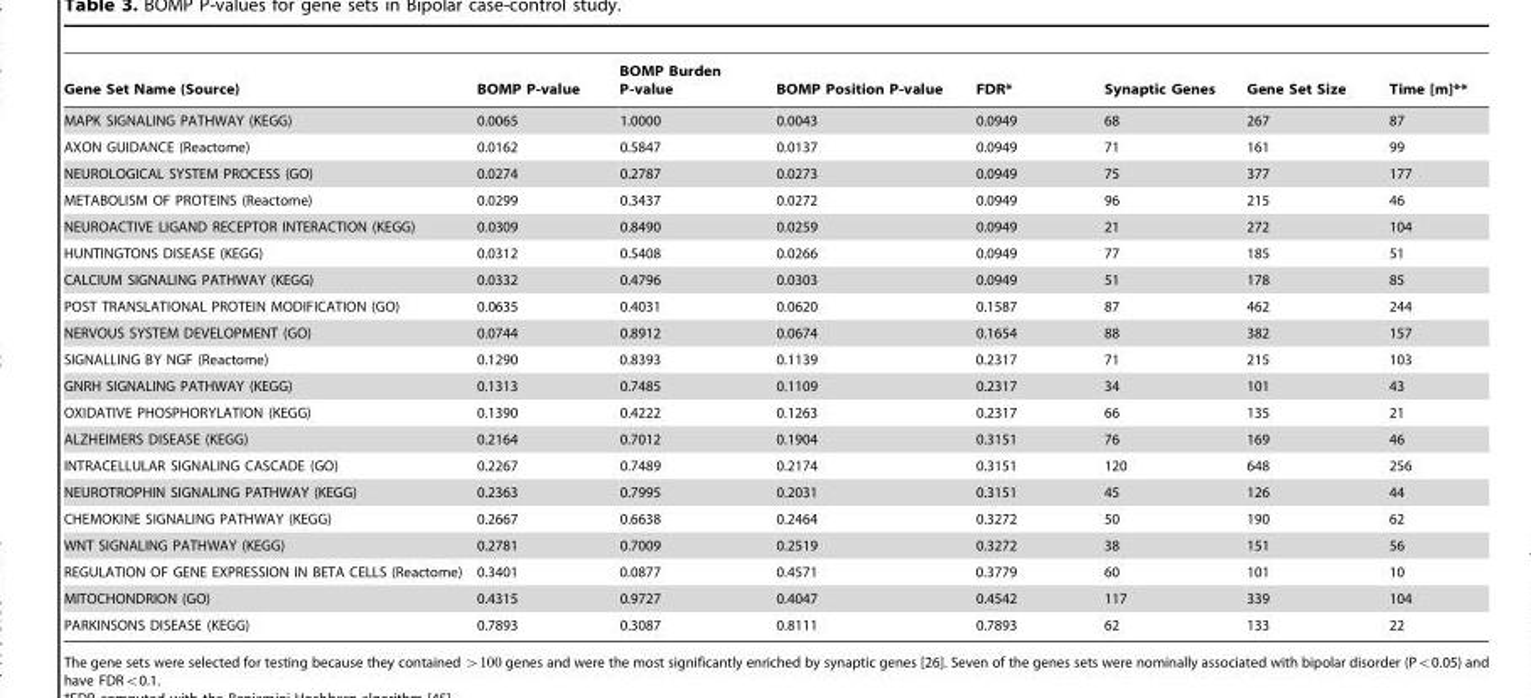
<table><thead><tr><td>Gene Set Name (Source)</td><td>BOMP P-value</td><td>BOMP Burden P-value</td><td>BOMP Position P-value</td><td>FDR*</td><td>Synaptic Genes</td><td>Gene Set Size</td><td>Time [m]**</td></tr></thead><tbody><tr><td>MAPK SIGNALING PATHWAY (KEGG)</td><td>0.0065</td><td>1.0000</td><td>0.0043</td><td>0.0949</td><td>68</td><td>267</td><td>87</td></tr><tr><td>AXON GUIDANCE (Reactome)</td><td>0.0162</td><td>0.5847</td><td>0.0137</td><td>0.0949</td><td>71</td><td>161</td><td>99</td></tr><tr><td>NEUROLOGICAL SYSTEM PROCESS (GO)</td><td>0.0274</td><td>0.2787</td><td>0.0273</td><td>0.0949</td><td>75</td><td>377</td><td>177</td></tr><tr><td>METABOLISM OF PROTEINS (Reactome)</td><td>0.0299</td><td>0.3437</td><td>0.0272</td><td>0.0949</td><td>96</td><td>215</td><td>46</td></tr><tr><td>NEUROACTIVE LIGAND RECEPTOR INTERACTION (KEGG)</td><td>0.0309</td><td>0.8490</td><td>0.0259</td><td>0.0949</td><td>21</td><td>272</td><td>104</td></tr><tr><td>HUNTINGTONS DISEASE (KEGG)</td><td>0.0312</td><td>0.5408</td><td>0.0266</td><td>0.0949</td><td>77</td><td>185</td><td>51</td></tr><tr><td>CALCIUM SIGNALING PATHWAY (KEGG)</td><td>0.0332</td><td>0.4796</td><td>0.0303</td><td>0.0949</td><td>51</td><td>178</td><td>85</td></tr><tr><td>POST TRANSLATIONAL PROTEIN MODIFICATION (GO)</td><td>0.0635</td><td>0.4031</td><td>0.0620</td><td>0.1587</td><td>87</td><td>462</td><td>244</td></tr><tr><td>NERVOUS SYSTEM DEVELOPMENT (GO)</td><td>0.0744</td><td>0.8912</td><td>0.0674</td><td>0.1654</td><td>88</td><td>382</td><td>157</td></tr><tr><td>SIGNALLING BY NGF (Reactome)</td><td>0.1290</td><td>0.8393</td><td>0.1139</td><td>0.2317</td><td>71</td><td>215</td><td>103</td></tr><tr><td>GNRH SIGNALING PATHWAY (KEGG)</td><td>0.1313</td><td>0.7485</td><td>0.1109</td><td>0.2317</td><td>34</td><td>101</td><td>43</td></tr><tr><td>OXIDATIVE PHOSPHORYLATION (KEGG)</td><td>0.1390</td><td>0.4222</td><td>0.1263</td><td>0.2317</td><td>66</td><td>135</td><td>21</td></tr><tr><td>ALZHEIMERS DISEASE (KEGG)</td><td>0.2164</td><td>0.7012</td><td>0.1904</td><td>0.3151</td><td>76</td><td>169</td><td>46</td></tr><tr><td>INTRACELLULAR SIGNALING CASCADE (GO)</td><td>0.2267</td><td>0.7489</td><td>0.2174</td><td>0.3151</td><td>120</td><td>648</td><td>256</td></tr><tr><td>NEUROTROPHIN SIGNALING PATHWAY (KEGG)</td><td>0.2363</td><td>0.7995</td><td>0.2031</td><td>0.3151</td><td>45</td><td>126</td><td>44</td></tr><tr><td>CHEMOKINE SIGNALING PATHWAY (KEGG)</td><td>0.2667</td><td>0.6638</td><td>0.2464</td><td>0.3272</td><td>50</td><td>190</td><td>62</td></tr><tr><td>WNT SIGNALING PATHWAY (KEGG)</td><td>0.2781</td><td>0.7009</td><td>0.2519</td><td>0.3272</td><td>38</td><td>151</td><td>56</td></tr><tr><td>REGULATION OF GENE EXPRESSION IN BETA CELLS (Reactome)</td><td>0.3401</td><td>0.0877</td><td>0.4571</td><td>0.3779</td><td>60</td><td>101</td><td>10</td></tr><tr><td>MITOCHONDRION (GO)</td><td>0.4315</td><td>0.9727</td><td>0.4047</td><td>0.4542</td><td>117</td><td>339</td><td>104</td></tr><tr><td>PARKINSONS DISEASE (KEGG)</td><td>0.7893</td><td>0.3087</td><td>0.8111</td><td>0.7893</td><td>62</td><td>133</td><td>22</td></tr></tbody></table>